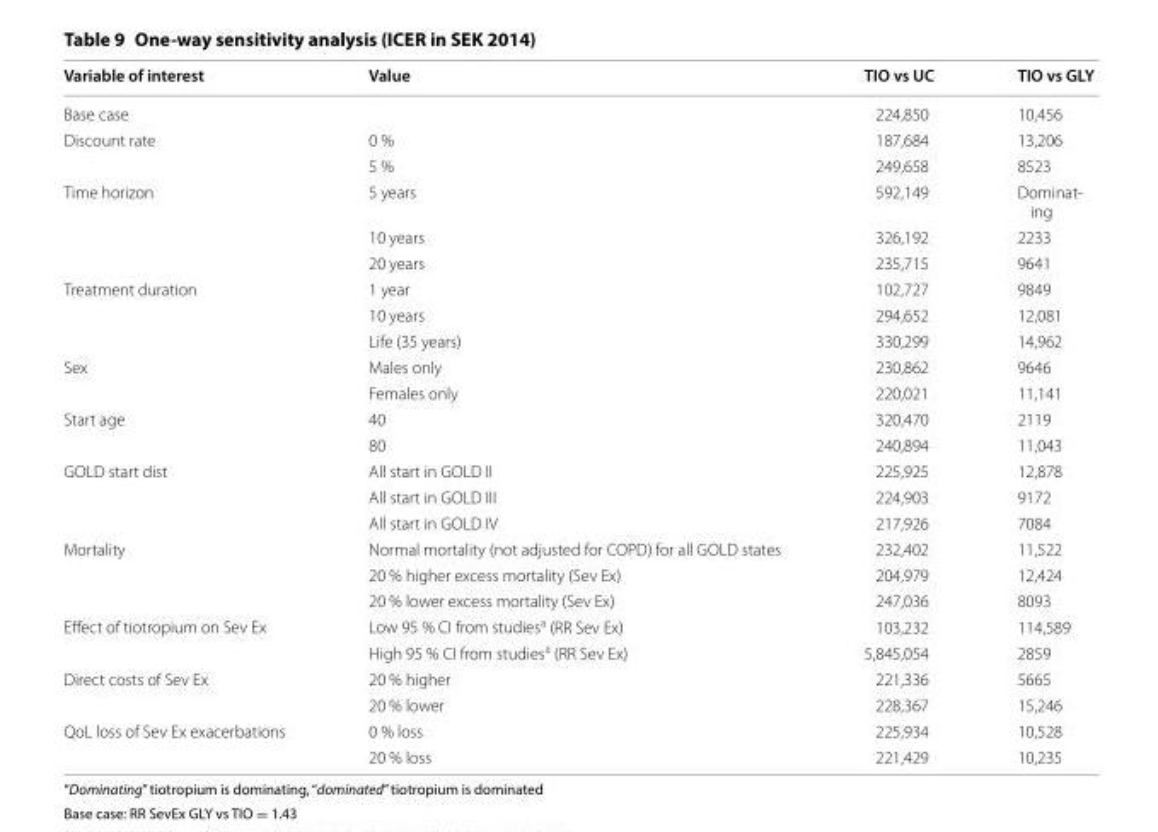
<table><thead><tr><td>Variable of interest</td><td>Value</td><td>TIO vs UC</td><td>TIO vs GLY</td></tr></thead><tbody><tr><td>Base case</td><td></td><td>224,850</td><td>10,456</td></tr><tr><td rowspan="2">Discount rate</td><td>0 %</td><td>187,684</td><td>13,206</td></tr><tr><td>5 %</td><td>249,658</td><td>8523</td></tr><tr><td rowspan="3">Time horizon</td><td>5 years</td><td>592,149</td><td>Dominat- ing</td></tr><tr><td>10 years</td><td>326,192</td><td>2233</td></tr><tr><td>20 years</td><td>235,715</td><td>9641</td></tr><tr><td rowspan="3">Treatment duration</td><td>1 year</td><td>102,727</td><td>9849</td></tr><tr><td>10 years</td><td>294,652</td><td>12,081</td></tr><tr><td>Life (35 years)</td><td>330,299</td><td>14,962</td></tr><tr><td rowspan="2">Sex</td><td>Males only</td><td>230,862</td><td>9646</td></tr><tr><td>Females only</td><td>220,021</td><td>11,141</td></tr><tr><td rowspan="2">Start age</td><td>40</td><td>320,470</td><td>2119</td></tr><tr><td>80</td><td>240,894</td><td>11,043</td></tr><tr><td rowspan="3">GOLD start dist</td><td>All start in GOLD II</td><td>225,925</td><td>12,878</td></tr><tr><td>All start in GOLD III</td><td>224,903</td><td>9172</td></tr><tr><td>All start in GOLD IV</td><td>217,926</td><td>7084</td></tr><tr><td rowspan="3">Mortality</td><td>Normal mortality (not adjusted for COPD) for all GOLD states</td><td>232,402</td><td>11,522</td></tr><tr><td>20 % higher excess mortality (Sev Ex)</td><td>204,979</td><td>12,424</td></tr><tr><td>20 % lower excess mortality (Sev Ex)</td><td>247,036</td><td>8093</td></tr><tr><td rowspan="2">Effect of tiotropium on Sev Ex</td><td>Low 95 % CI from studies<sup>a</sup> (RR Sev Ex)</td><td>103,232</td><td>114,589</td></tr><tr><td>High 95 % CI from studies<sup>a</sup> (RR Sev Ex)</td><td>5,845,054</td><td>2859</td></tr><tr><td rowspan="2">Direct costs of Sev Ex</td><td>20 % higher</td><td>221,336</td><td>5665</td></tr><tr><td>20 % lower</td><td>228,367</td><td>15,246</td></tr><tr><td rowspan="2">QoL loss of Sev Ex exacerbations</td><td>0 % loss</td><td>225,934</td><td>10,528</td></tr><tr><td>20 % loss</td><td>221,429</td><td>10,235</td></tr></tbody></table>